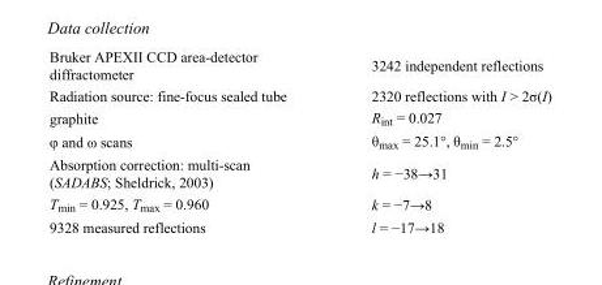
<table><tbody><tr><td>Bruker APEXII CCD area-detector diffractometer</td><td>3242 independent reflections</td></tr><tr><td>Radiation source: fine-focus sealed tube</td><td>2320 reflections with I &gt; 2σ(I)</td></tr><tr><td>graphite</td><td>R<sub>int</sub> = 0.027</td></tr><tr><td>φ and ω scans</td><td>θ<sub>max</sub> = 25.1°, θ<sub>min</sub> = 2.5°</td></tr><tr><td>Absorption correction: multi-scan (SADABS; Sheldrick, 2003)</td><td>h = −38→31</td></tr><tr><td>T<sub>min</sub> = 0.925, T<sub>max</sub> = 0.960</td><td>k = −7→8</td></tr><tr><td>9328 measured reflections</td><td>l = −17→18</td></tr></tbody></table>